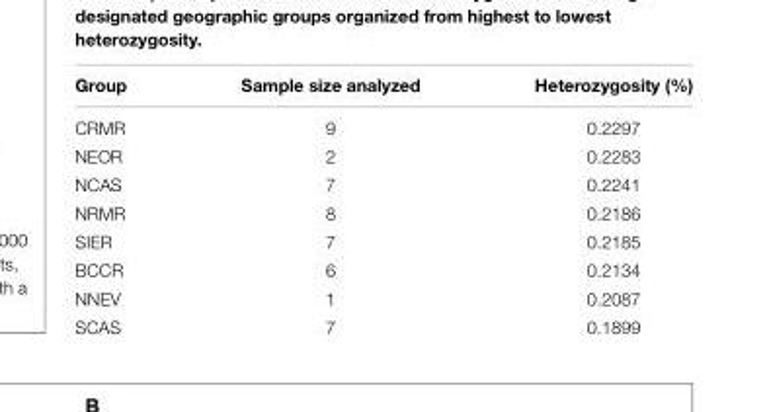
<table><thead><tr><td>Group</td><td>Sample size analyzed</td><td>Heterozygosity (%)</td></tr></thead><tbody><tr><td>CRMR</td><td>9</td><td>0.2297</td></tr><tr><td>NEOR</td><td>2</td><td>0.2283</td></tr><tr><td>NCAS</td><td>7</td><td>0.2241</td></tr><tr><td>NRMR</td><td>8</td><td>0.2186</td></tr><tr><td>SIER</td><td>7</td><td>0.2185</td></tr><tr><td>BCCR</td><td>6</td><td>0.2134</td></tr><tr><td>NNEV</td><td>1</td><td>0.2087</td></tr><tr><td>SCAS</td><td>7</td><td>0.1899</td></tr></tbody></table>